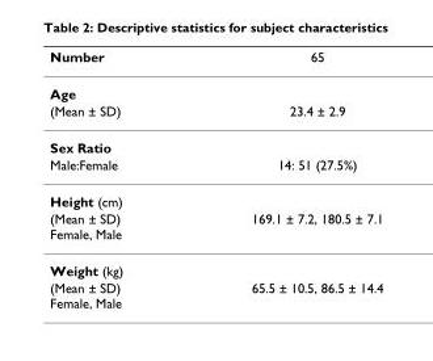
<table><thead><tr><td>Number</td><td>65</td></tr></thead><tbody><tr><td colspan="2">Age</td></tr><tr><td>(Mean ± SD)</td><td>23.4 ± 2.9</td></tr><tr><td colspan="2">Sex Ratio</td></tr><tr><td>Male:Female</td><td>14: 51 (27.5%)</td></tr><tr><td colspan="2">Height (cm)</td></tr><tr><td>(Mean ± SD) Female, Male</td><td>169.1 ± 7.2, 180.5 ± 7.1</td></tr><tr><td colspan="2">Weight (kg)</td></tr><tr><td>(Mean ± SD) Female, Male</td><td>65.5 ± 10.5, 86.5 ± 14.4</td></tr></tbody></table>